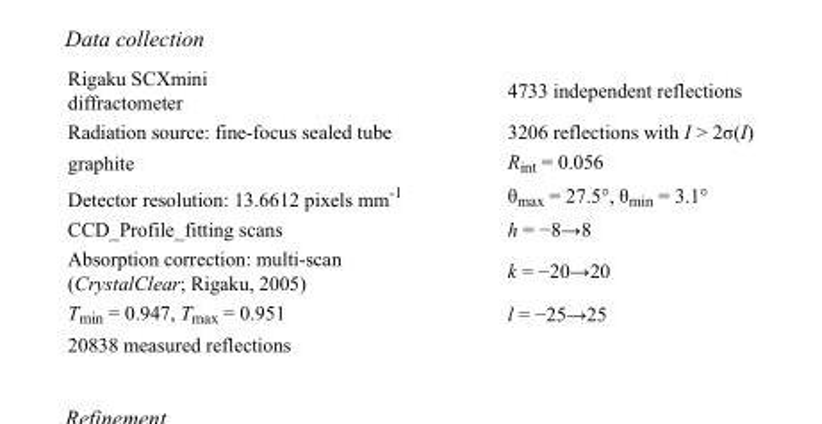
<table><tbody><tr><td>Rigaku SCXmini diffractometer</td><td>4733 independent reflections</td></tr><tr><td>Radiation source: fine-focus sealed tube</td><td>3206 reflections with I &gt; 2σ(I)</td></tr><tr><td>graphite</td><td>R<sub>int</sub> = 0.056</td></tr><tr><td>Detector resolution: 13.6612 pixels mm<sup>-1</sup></td><td>θ<sub>max</sub> = 27.5°, θ<sub>min</sub> = 3.1°</td></tr><tr><td>CCD_Profile_fitting scans</td><td>h = −8→8</td></tr><tr><td>Absorption correction: multi-scan (CrystalClear; Rigaku, 2005)</td><td>k = −20→20</td></tr><tr><td>T<sub>min</sub> = 0.947, T<sub>max</sub> = 0.951</td><td>l = −25→25</td></tr><tr><td>20838 measured reflections</td><td></td></tr></tbody></table>